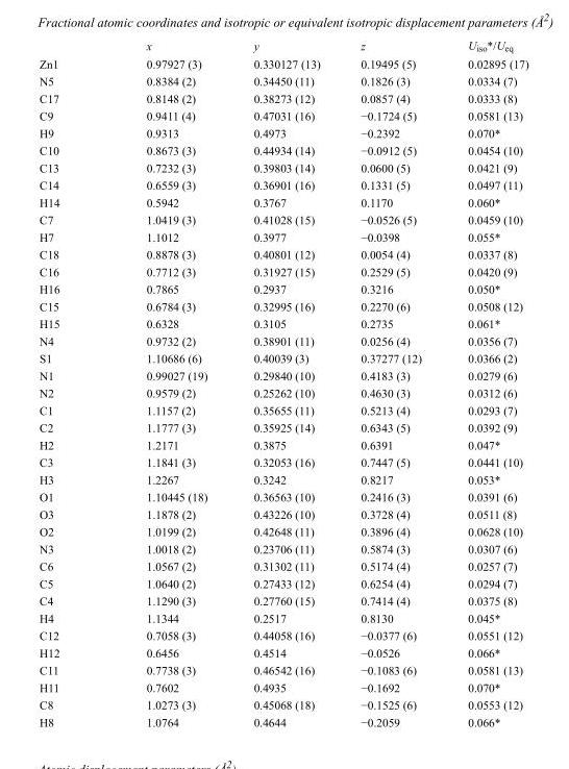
<table><thead><tr><td></td><td>x</td><td>y</td><td>z</td><td>U<sub>iso</sub>*/U<sub>eq</sub></td></tr></thead><tbody><tr><td>Zn1</td><td>0.97927 (3)</td><td>0.330127 (13)</td><td>0.19495 (5)</td><td>0.02895 (17)</td></tr><tr><td>N5</td><td>0.8384 (2)</td><td>0.34450 (11)</td><td>0.1826 (3)</td><td>0.0334 (7)</td></tr><tr><td>C17</td><td>0.8148 (2)</td><td>0.38273 (12)</td><td>0.0857 (4)</td><td>0.0333 (8)</td></tr><tr><td>C9</td><td>0.9411 (4)</td><td>0.47031 (16)</td><td>−0.1724 (5)</td><td>0.0581 (13)</td></tr><tr><td>H9</td><td>0.9313</td><td>0.4973</td><td>−0.2392</td><td>0.070*</td></tr><tr><td>C10</td><td>0.8673 (3)</td><td>0.44934 (14)</td><td>−0.0912 (5)</td><td>0.0454 (10)</td></tr><tr><td>C13</td><td>0.7232 (3)</td><td>0.39803 (14)</td><td>0.0600 (5)</td><td>0.0421 (9)</td></tr><tr><td>C14</td><td>0.6559 (3)</td><td>0.36901 (16)</td><td>0.1331 (5)</td><td>0.0497 (11)</td></tr><tr><td>H14</td><td>0.5942</td><td>0.3767</td><td>0.1170</td><td>0.060*</td></tr><tr><td>C7</td><td>1.0419 (3)</td><td>0.41028 (15)</td><td>−0.0526 (5)</td><td>0.0459 (10)</td></tr><tr><td>H7</td><td>1.1012</td><td>0.3977</td><td>−0.0398</td><td>0.055*</td></tr><tr><td>C18</td><td>0.8878 (3)</td><td>0.40801 (12)</td><td>0.0054 (4)</td><td>0.0337 (8)</td></tr><tr><td>C16</td><td>0.7712 (3)</td><td>0.31927 (15)</td><td>0.2529 (5)</td><td>0.0420 (9)</td></tr><tr><td>H16</td><td>0.7865</td><td>0.2937</td><td>0.3216</td><td>0.050*</td></tr><tr><td>C15</td><td>0.6784 (3)</td><td>0.32995 (16)</td><td>0.2270 (6)</td><td>0.0508 (12)</td></tr><tr><td>H15</td><td>0.6328</td><td>0.3105</td><td>0.2735</td><td>0.061*</td></tr><tr><td>N4</td><td>0.9732 (2)</td><td>0.38901 (11)</td><td>0.0256 (4)</td><td>0.0356 (7)</td></tr><tr><td>S1</td><td>1.10686 (6)</td><td>0.40039 (3)</td><td>0.37277 (12)</td><td>0.0366 (2)</td></tr><tr><td>N1</td><td>0.99027 (19)</td><td>0.29840 (10)</td><td>0.4183 (3)</td><td>0.0279 (6)</td></tr><tr><td>N2</td><td>0.9579 (2)</td><td>0.25262 (10)</td><td>0.4630 (3)</td><td>0.0312 (6)</td></tr><tr><td>C1</td><td>1.1157 (2)</td><td>0.35655 (11)</td><td>0.5213 (4)</td><td>0.0293 (7)</td></tr><tr><td>C2</td><td>1.1777 (3)</td><td>0.35925 (14)</td><td>0.6343 (5)</td><td>0.0392 (9)</td></tr><tr><td>H2</td><td>1.2171</td><td>0.3875</td><td>0.6391</td><td>0.047*</td></tr><tr><td>C3</td><td>1.1841 (3)</td><td>0.32053 (16)</td><td>0.7447 (5)</td><td>0.0441 (10)</td></tr><tr><td>H3</td><td>1.2267</td><td>0.3242</td><td>0.8217</td><td>0.053*</td></tr><tr><td>O1</td><td>1.10445 (18)</td><td>0.36563 (10)</td><td>0.2416 (3)</td><td>0.0391 (6)</td></tr><tr><td>O3</td><td>1.1878 (2)</td><td>0.43226 (10)</td><td>0.3728 (4)</td><td>0.0511 (8)</td></tr><tr><td>O2</td><td>1.0199 (2)</td><td>0.42648 (11)</td><td>0.3896 (4)</td><td>0.0628 (10)</td></tr><tr><td>N3</td><td>1.0018 (2)</td><td>0.23706 (11)</td><td>0.5874 (3)</td><td>0.0307 (6)</td></tr><tr><td>C6</td><td>1.0567 (2)</td><td>0.31302 (11)</td><td>0.5174 (4)</td><td>0.0257 (7)</td></tr><tr><td>C5</td><td>1.0640 (2)</td><td>0.27433 (12)</td><td>0.6254 (4)</td><td>0.0294 (7)</td></tr><tr><td>C4</td><td>1.1290 (3)</td><td>0.27760 (15)</td><td>0.7414 (4)</td><td>0.0375 (8)</td></tr><tr><td>H4</td><td>1.1344</td><td>0.2517</td><td>0.8130</td><td>0.045*</td></tr><tr><td>C12</td><td>0.7058 (3)</td><td>0.44058 (16)</td><td>−0.0377 (6)</td><td>0.0551 (12)</td></tr><tr><td>H12</td><td>0.6456</td><td>0.4514</td><td>−0.0526</td><td>0.066*</td></tr><tr><td>C11</td><td>0.7738 (3)</td><td>0.46542 (16)</td><td>−0.1083 (6)</td><td>0.0581 (13)</td></tr><tr><td>H11</td><td>0.7602</td><td>0.4935</td><td>−0.1692</td><td>0.070*</td></tr><tr><td>C8</td><td>1.0273 (3)</td><td>0.45068 (18)</td><td>−0.1525 (6)</td><td>0.0553 (12)</td></tr><tr><td>H8</td><td>1.0764</td><td>0.4644</td><td>−0.2059</td><td>0.066*</td></tr></tbody></table>